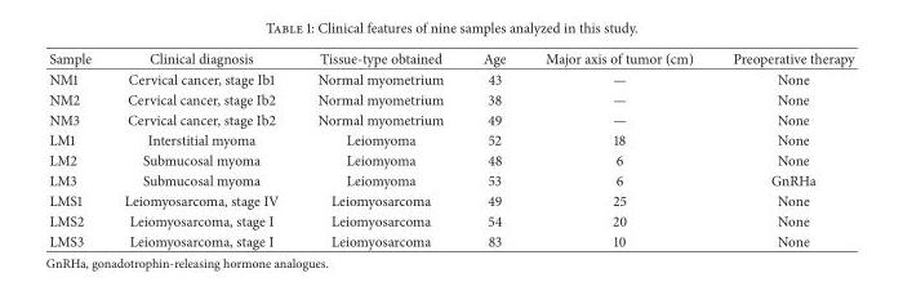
<table><thead><tr><td>Sample</td><td>Clinical diagnosis</td><td>Tissue-type obtained</td><td>Age</td><td>Major axis of tumor (cm)</td><td>Preoperative therapy</td></tr></thead><tbody><tr><td>NM1</td><td>Cervical cancer, stage Ib1</td><td>Normal myometrium</td><td>43</td><td>—</td><td>None</td></tr><tr><td>NM2</td><td>Cervical cancer, stage Ib2</td><td>Normal myometrium</td><td>38</td><td>—</td><td>None</td></tr><tr><td>NM3</td><td>Cervical cancer, stage Ib2</td><td>Normal myometrium</td><td>49</td><td>—</td><td>None</td></tr><tr><td>LM1</td><td>Interstitial myoma</td><td>Leiomyoma</td><td>52</td><td>18</td><td>None</td></tr><tr><td>LM2</td><td>Submucosal myoma</td><td>Leiomyoma</td><td>48</td><td>6</td><td>None</td></tr><tr><td>LM3</td><td>Submucosal myoma</td><td>Leiomyoma</td><td>53</td><td>6</td><td>GnRHa</td></tr><tr><td>LMS1</td><td>Leiomyosarcoma, stage IV</td><td>Leiomyosarcoma</td><td>49</td><td>25</td><td>None</td></tr><tr><td>LMS2</td><td>Leiomyosarcoma, stage I</td><td>Leiomyosarcoma</td><td>54</td><td>20</td><td>None</td></tr><tr><td>LMS3</td><td>Leiomyosarcoma, stage I</td><td>Leiomyosarcoma</td><td>83</td><td>10</td><td>None</td></tr></tbody></table>